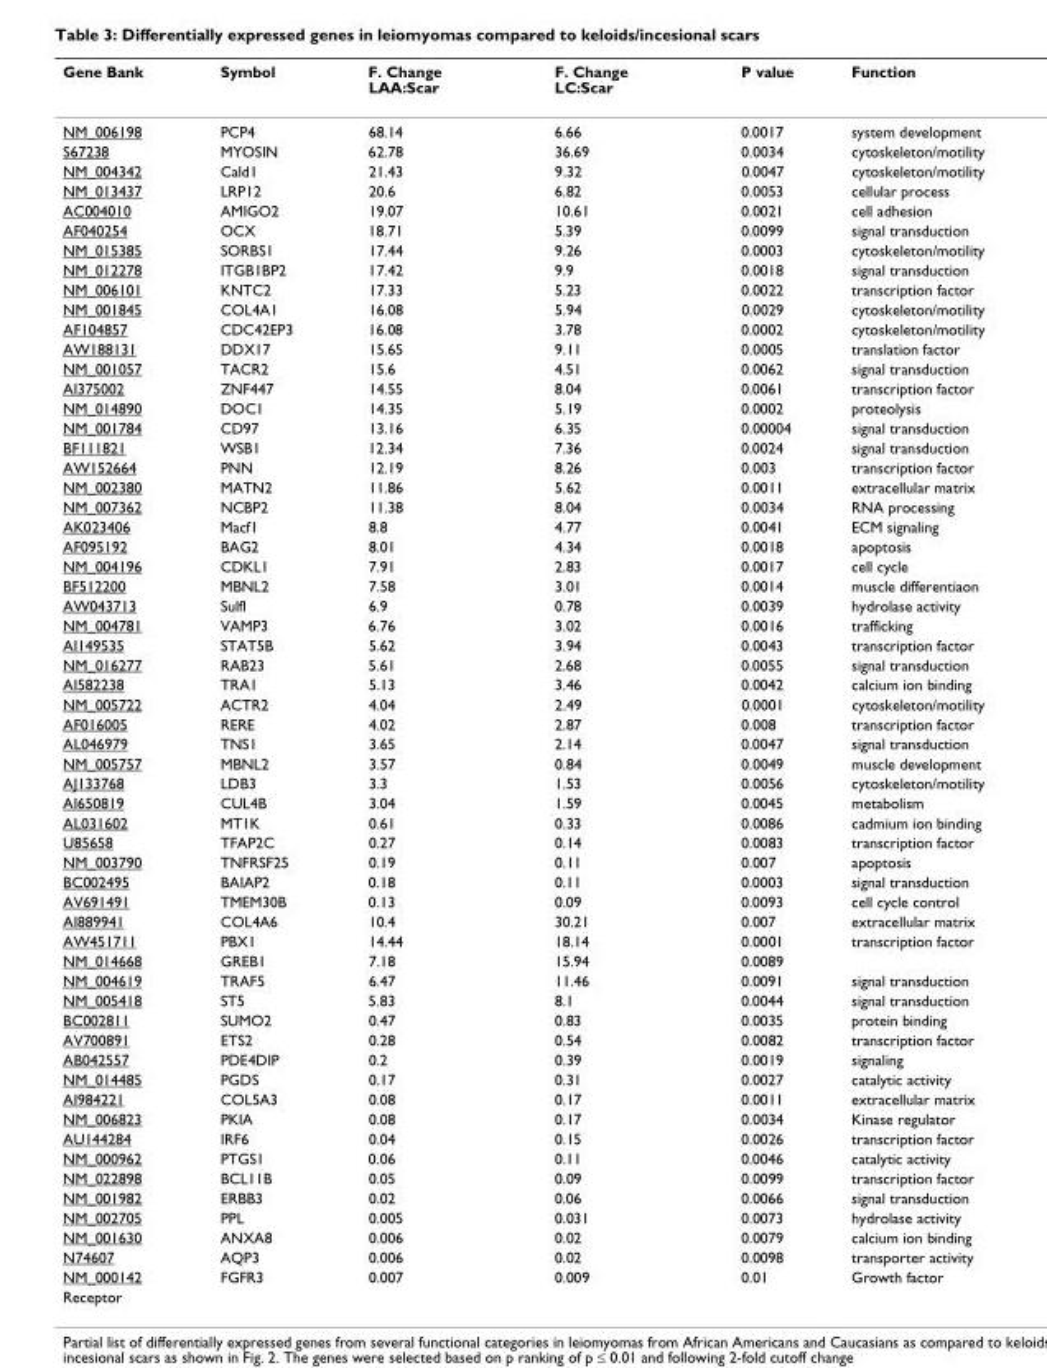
<table><thead><tr><td>Gene Bank</td><td>Symbol</td><td>F. Change LAA:Scar</td><td>F. Change LC:Scar</td><td>P value</td><td>Function</td></tr></thead><tbody><tr><td>NM_006198</td><td>PCP4</td><td>68.14</td><td>6.66</td><td>0.0017</td><td>system development</td></tr><tr><td>S67238</td><td>MYOSIN</td><td>62.78</td><td>36.69</td><td>0.0034</td><td>cytoskeleton/motility</td></tr><tr><td>NM_004342</td><td>Cald1</td><td>21.43</td><td>9.32</td><td>0.0047</td><td>cytoskeleton/motility</td></tr><tr><td>NM_013437</td><td>LRP12</td><td>20.6</td><td>6.82</td><td>0.0053</td><td>cellular process</td></tr><tr><td>AC004010</td><td>AMIGO2</td><td>19.07</td><td>10.61</td><td>0.0021</td><td>cell adhesion</td></tr><tr><td>AF040254</td><td>OCX</td><td>18.71</td><td>5.39</td><td>0.0099</td><td>signal transduction</td></tr><tr><td>NM_015385</td><td>SORBS1</td><td>17.44</td><td>9.26</td><td>0.0003</td><td>cytoskeleton/motility</td></tr><tr><td>NM_012278</td><td>ITGB1BP2</td><td>17.42</td><td>9.9</td><td>0.0018</td><td>signal transduction</td></tr><tr><td>NM_006101</td><td>KNTC2</td><td>17.33</td><td>5.23</td><td>0.0022</td><td>transcription factor</td></tr><tr><td>NM_001845</td><td>COL4A1</td><td>16.08</td><td>5.94</td><td>0.0029</td><td>cytoskeleton/motility</td></tr><tr><td>AF104857</td><td>CDC42EP3</td><td>16.08</td><td>3.78</td><td>0.0002</td><td>cytoskeleton/motility</td></tr><tr><td>AW188131</td><td>DDX17</td><td>15.65</td><td>9.11</td><td>0.0005</td><td>translation factor</td></tr><tr><td>NM_001057</td><td>TACR2</td><td>15.6</td><td>4.51</td><td>0.0062</td><td>signal transduction</td></tr><tr><td>AI375002</td><td>ZNF447</td><td>14.55</td><td>8.04</td><td>0.0061</td><td>transcription factor</td></tr><tr><td>NM_014890</td><td>DOC1</td><td>14.35</td><td>5.19</td><td>0.0002</td><td>proteolysis</td></tr><tr><td>NM_001784</td><td>CD97</td><td>13.16</td><td>6.35</td><td>0.00004</td><td>signal transduction</td></tr><tr><td>BF111821</td><td>WSB1</td><td>12.34</td><td>7.36</td><td>0.0024</td><td>signal transduction</td></tr><tr><td>AW152664</td><td>PNN</td><td>12.19</td><td>8.26</td><td>0.003</td><td>transcription factor</td></tr><tr><td>NM_002380</td><td>MATN2</td><td>11.86</td><td>5.62</td><td>0.0011</td><td>extracellular matrix</td></tr><tr><td>NM_007362</td><td>NCBP2</td><td>11.38</td><td>8.04</td><td>0.0034</td><td>RNA processing</td></tr><tr><td>AK023406</td><td>Macf1</td><td>8.8</td><td>4.77</td><td>0.0041</td><td>ECM signaling</td></tr><tr><td>AF095192</td><td>BAG2</td><td>8.01</td><td>4.34</td><td>0.0018</td><td>apoptosis</td></tr><tr><td>NM_004196</td><td>CDKL1</td><td>7.91</td><td>2.83</td><td>0.0017</td><td>cell cycle</td></tr><tr><td>BF512200</td><td>MBNL2</td><td>7.58</td><td>3.01</td><td>0.0014</td><td>muscle differentiaon</td></tr><tr><td>AW043713</td><td>Sulfl</td><td>6.9</td><td>0.78</td><td>0.0039</td><td>hydrolase activity</td></tr><tr><td>NM_004781</td><td>VAMP3</td><td>6.76</td><td>3.02</td><td>0.0016</td><td>trafficking</td></tr><tr><td>AI149535</td><td>STAT5B</td><td>5.62</td><td>3.94</td><td>0.0043</td><td>transcription factor</td></tr><tr><td>NM_016277</td><td>RAB23</td><td>5.61</td><td>2.68</td><td>0.0055</td><td>signal transduction</td></tr><tr><td>AI582238</td><td>TRA1</td><td>5.13</td><td>3.46</td><td>0.0042</td><td>calcium ion binding</td></tr><tr><td>NM_005722</td><td>ACTR2</td><td>4.04</td><td>2.49</td><td>0.0001</td><td>cytoskeleton/motility</td></tr><tr><td>AF016005</td><td>RERE</td><td>4.02</td><td>2.87</td><td>0.008</td><td>transcription factor</td></tr><tr><td>AL046979</td><td>TNS1</td><td>3.65</td><td>2.14</td><td>0.0047</td><td>signal transduction</td></tr><tr><td>NM_005757</td><td>MBNL2</td><td>3.57</td><td>0.84</td><td>0.0049</td><td>muscle development</td></tr><tr><td>AJ133768</td><td>LDB3</td><td>3.3</td><td>1.53</td><td>0.0056</td><td>cytoskeleton/motility</td></tr><tr><td>AI650819</td><td>CUL4B</td><td>3.04</td><td>1.59</td><td>0.0045</td><td>metabolism</td></tr><tr><td>AL031602</td><td>MT1K</td><td>0.61</td><td>0.33</td><td>0.0086</td><td>cadmium ion binding</td></tr><tr><td>U85658</td><td>TFAP2C</td><td>0.27</td><td>0.14</td><td>0.0083</td><td>transcription factor</td></tr><tr><td>NM_003790</td><td>TNFRSF25</td><td>0.19</td><td>0.11</td><td>0.007</td><td>apoptosis</td></tr><tr><td>BC002495</td><td>BAIAP2</td><td>0.18</td><td>0.11</td><td>0.0003</td><td>signal transduction</td></tr><tr><td>AV691491</td><td>TMEM30B</td><td>0.13</td><td>0.09</td><td>0.0093</td><td>cell cycle control</td></tr><tr><td>AI889941</td><td>COL4A6</td><td>10.4</td><td>30.21</td><td>0.007</td><td>extracellular matrix</td></tr><tr><td>AW451711</td><td>PBX1</td><td>14.44</td><td>18.14</td><td>0.0001</td><td>transcription factor</td></tr><tr><td>NM_014668</td><td>GREB1</td><td>7.18</td><td>15.94</td><td>0.0089</td><td></td></tr><tr><td>NM_004619</td><td>TRAF5</td><td>6.47</td><td>11.46</td><td>0.0091</td><td>signal transduction</td></tr><tr><td>NM_005418</td><td>ST5</td><td>5.83</td><td>8.1</td><td>0.0044</td><td>signal transduction</td></tr><tr><td>BC002811</td><td>SUMO2</td><td>0.47</td><td>0.83</td><td>0.0035</td><td>protein binding</td></tr><tr><td>AV700891</td><td>ETS2</td><td>0.28</td><td>0.54</td><td>0.0082</td><td>transcription factor</td></tr><tr><td>AB042557</td><td>PDE4DIP</td><td>0.2</td><td>0.39</td><td>0.0019</td><td>signaling</td></tr><tr><td>NM_014485</td><td>PGDS</td><td>0.17</td><td>0.31</td><td>0.0027</td><td>catalytic activity</td></tr><tr><td>AI984221</td><td>COL5A3</td><td>0.08</td><td>0.17</td><td>0.0011</td><td>extracellular matrix</td></tr><tr><td>NM_006823</td><td>PKIA</td><td>0.08</td><td>0.17</td><td>0.0034</td><td>Kinase regulator</td></tr><tr><td>AU144284</td><td>IRF6</td><td>0.04</td><td>0.15</td><td>0.0026</td><td>transcription factor</td></tr><tr><td>NM_000962</td><td>PTGS1</td><td>0.06</td><td>0.11</td><td>0.0046</td><td>catalytic activity</td></tr><tr><td>NM_022898</td><td>BCL11B</td><td>0.05</td><td>0.09</td><td>0.0099</td><td>transcription factor</td></tr><tr><td>NM_001982</td><td>ERBB3</td><td>0.02</td><td>0.06</td><td>0.0066</td><td>signal transduction</td></tr><tr><td>NM_002705</td><td>PPL</td><td>0.005</td><td>0.031</td><td>0.0073</td><td>hydrolase activity</td></tr><tr><td>NM_001630</td><td>ANXA8</td><td>0.006</td><td>0.02</td><td>0.0079</td><td>calcium ion binding</td></tr><tr><td>N74607</td><td>AQP3</td><td>0.006</td><td>0.02</td><td>0.0098</td><td>transporter activity</td></tr><tr><td>NM_000142</td><td>FGFR3</td><td>0.007</td><td>0.009</td><td>0.01</td><td>Growth factor</td></tr><tr><td>Receptor</td><td></td><td></td><td></td><td></td><td></td></tr></tbody></table>